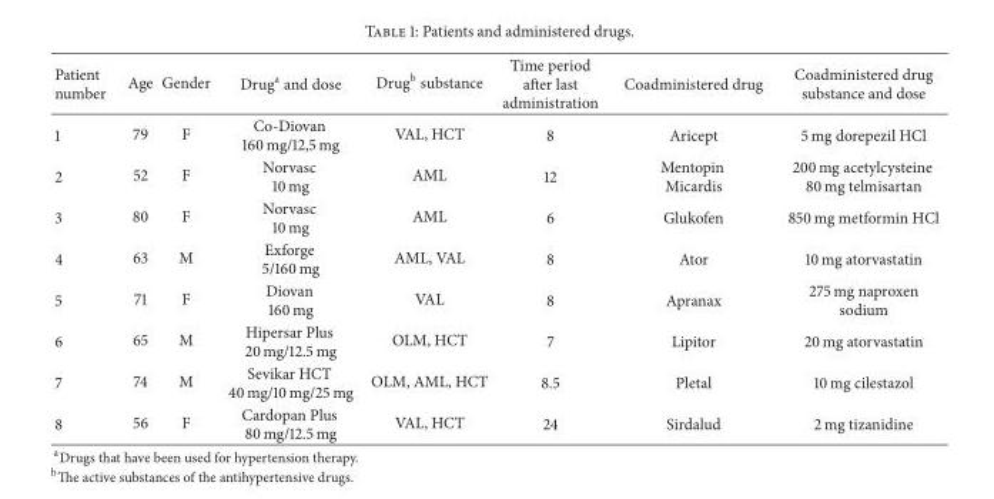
<table><thead><tr><td>Patient number</td><td>Age</td><td>Gender</td><td>Drug<sup>a</sup> and dose</td><td>Drug<sup>b</sup> substance</td><td>Time period after last administration</td><td>Coadministered drug</td><td>Coadministered drug substance and dose</td></tr></thead><tbody><tr><td>1</td><td>79</td><td>F</td><td>Co-Diovan 160 mg/12,5 mg</td><td>VAL, HCT</td><td>8</td><td>Aricept</td><td>5 mg dorepezil HCl</td></tr><tr><td>2</td><td>52</td><td>F</td><td>Norvasc 10 mg</td><td>AML</td><td>12</td><td>Mentopin Micardis</td><td>200 mg acetylcysteine 80 mg telmisartan</td></tr><tr><td>3</td><td>80</td><td>F</td><td>Norvasc 10 mg</td><td>AML</td><td>6</td><td>Glukofen</td><td>850 mg metformin HCl</td></tr><tr><td>4</td><td>63</td><td>M</td><td>Exforge 5/160 mg</td><td>AML, VAL</td><td>8</td><td>Ator</td><td>10 mg atorvastatin</td></tr><tr><td>5</td><td>71</td><td>F</td><td>Diovan 160 mg</td><td>VAL</td><td>8</td><td>Apranax</td><td>275 mg naproxen sodium</td></tr><tr><td>6</td><td>65</td><td>M</td><td>Hipersar Plus 20 mg/12.5 mg</td><td>OLM, HCT</td><td>7</td><td>Lipitor</td><td>20 mg atorvastatin</td></tr><tr><td>7</td><td>74</td><td>M</td><td>Sevikar HCT 40 mg/10 mg/25 mg</td><td>OLM, AML, HCT</td><td>8.5</td><td>Pletal</td><td>10 mg cilestazol</td></tr><tr><td>8</td><td>56</td><td>F</td><td>Cardopan Plus 80 mg/12.5 mg</td><td>VAL, HCT</td><td>24</td><td>Sirdalud</td><td>2 mg tizanidine</td></tr></tbody></table>